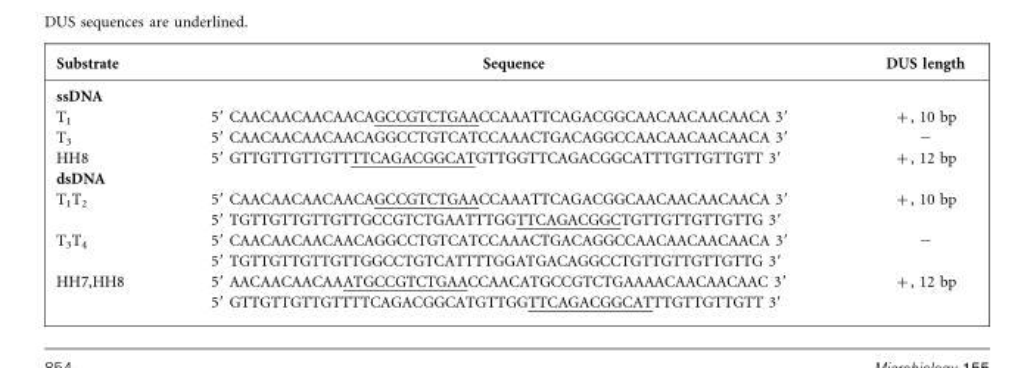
<table><thead><tr><td>Substrate</td><td>Sequence</td><td>DUS length</td></tr></thead><tbody><tr><td colspan="3">ssDNA</td></tr><tr><td>T<sub>1</sub></td><td>5′ CAACAACAACAACAGCCGTCTGAACCAAATTCAGACGGCAACAACAACAACA 3′</td><td>+, 10 bp</td></tr><tr><td>T<sub>3</sub></td><td>5′ CAACAACAACAACAGGCCTGTCATCCAAACTGACAGGCCAACAACAACAACA 3′</td><td>−</td></tr><tr><td>HH8</td><td>5′ GTTGTTGTTGTTTTCAGACGGCATGTTGGTTCAGACGGCATTTGTTGTTGTT 3′</td><td>+, 12 bp</td></tr><tr><td colspan="3">dsDNA</td></tr><tr><td rowspan="2">T<sub>1</sub>T<sub>2</sub></td><td>5′ CAACAACAACAACAGCCGTCTGAACCAAATTCAGACGGCAACAACAACAACA 3′</td><td>+, 10 bp</td></tr><tr><td>5′ TGTTGTTGTTGTTGCCGTCTGAATTTGGTTCAGACGGCTGTTGTTGTTGTTG 3′</td><td></td></tr><tr><td rowspan="2">T<sub>3</sub>T<sub>4</sub></td><td>5′ CAACAACAACAACAGGCCTGTCATCCAAACTGACAGGCCAACAACAACAACA 3′</td><td>−</td></tr><tr><td>5′ TGTTGTTGTTGTTGGCCTGTCATTTTGGATGACAGGCCTGTTGTTGTTGTTG 3′</td><td></td></tr><tr><td rowspan="2">HH7,HH8</td><td>5′ AACAACAACAAATGCCGTCTGAACCAACATGCCGTCTGAAAACAACAACAAC 3′</td><td>+, 12 bp</td></tr><tr><td>5′ GTTGTTGTTGTTTTCAGACGGCATGTTGGTTCAGACGGCATTTGTTGTTGTT 3′</td><td></td></tr></tbody></table>